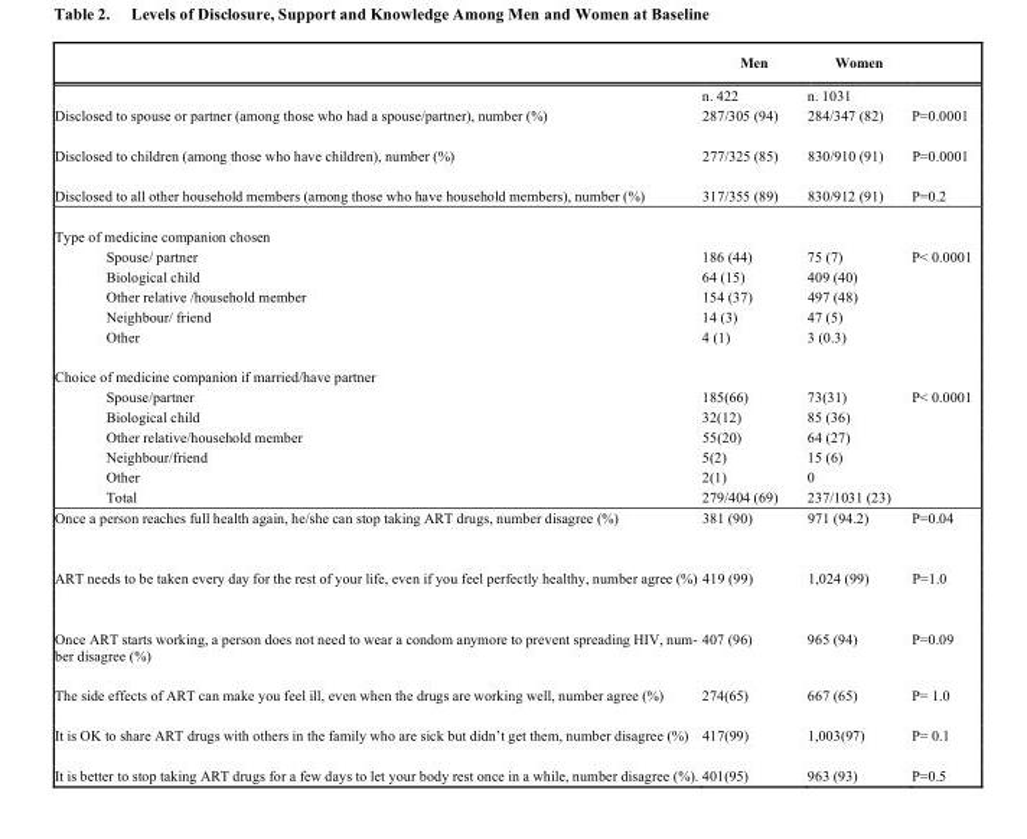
<table><thead><tr><td></td><td>Men</td><td>Women</td><td></td></tr></thead><tbody><tr><td></td><td>n. 422</td><td>n. 1031</td><td></td></tr><tr><td>Disclosed to spouse or partner (among those who had a spouse/partner), number (%)</td><td>287/305 (94)</td><td>284/347 (82)</td><td>P=0.0001</td></tr><tr><td>Disclosed to children (among those who have children), number (%)</td><td>277/325 (85)</td><td>830/910 (91)</td><td>P=0.0001</td></tr><tr><td>Disclosed to all other household members (among those who have household members), number (%)</td><td>317/355 (89)</td><td>830/912 (91)</td><td>P=0.2</td></tr><tr><td colspan="4">Type of medicine companion chosen</td></tr><tr><td>Spouse/ partner</td><td>186 (44)</td><td>75 (7)</td><td>P&lt; 0.0001</td></tr><tr><td>Biological child</td><td>64 (15)</td><td>409 (40)</td><td></td></tr><tr><td>Other relative /household member</td><td>154 (37)</td><td>497 (48)</td><td></td></tr><tr><td>Neighbour/ friend</td><td>14 (3)</td><td>47 (5)</td><td></td></tr><tr><td>Other</td><td>4 (1)</td><td>3 (0.3)</td><td></td></tr><tr><td colspan="4">Choice of medicine companion if married/have partner</td></tr><tr><td>Spouse/partner</td><td>185(66)</td><td>73(31)</td><td>P&lt; 0.0001</td></tr><tr><td>Biological child</td><td>32(12)</td><td>85 (36)</td><td></td></tr><tr><td>Other relative/household member</td><td>55(20)</td><td>64 (27)</td><td></td></tr><tr><td>Neighbour/friend</td><td>5(2)</td><td>15 (6)</td><td></td></tr><tr><td>Other</td><td>2(1)</td><td>0</td><td></td></tr><tr><td>Total</td><td>279/404 (69)</td><td>237/1031 (23)</td><td></td></tr><tr><td>Once a person reaches full health again, he/she can stop taking ART drugs, number disagree (%)</td><td>381 (90)</td><td>971 (94.2)</td><td>P=0.04</td></tr><tr><td>ART needs to be taken every day for the rest of your life, even if you feel perfectly healthy, number agree (%)</td><td>419 (99)</td><td>1,024 (99)</td><td>P=1.0</td></tr><tr><td>Once ART starts working, a person does not need to wear a condom anymore to prevent spreading HIV, num- ber disagree (%)</td><td>407 (96)</td><td>965 (94)</td><td>P=0.09</td></tr><tr><td>The side effects of ART can make you feel ill, even when the drugs are working well, number agree (%)</td><td>274(65)</td><td>667 (65)</td><td>P= 1.0</td></tr><tr><td>It is OK to share ART drugs with others in the family who are sick but didn’t get them, number disagree (%)</td><td>417(99)</td><td>1,003(97)</td><td>P= 0.1</td></tr><tr><td>It is better to stop taking ART drugs for a few days to let your body rest once in a while, number disagree (%).</td><td>401(95)</td><td>963 (93)</td><td>P=0.5</td></tr></tbody></table>